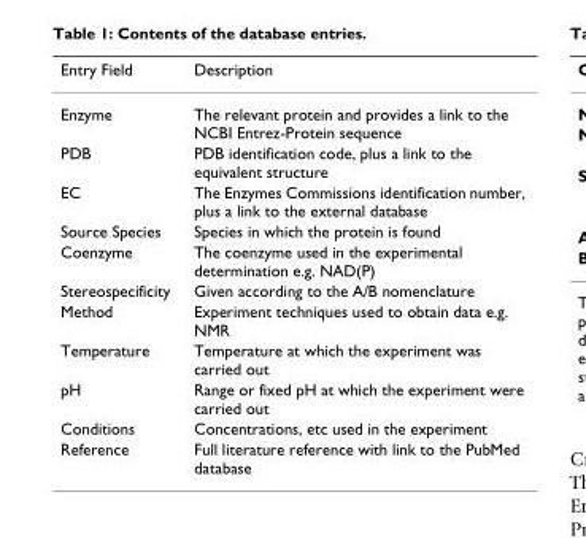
<table><thead><tr><td>Entry Field</td><td>Description</td></tr></thead><tbody><tr><td>Enzyme</td><td>The relevant protein and provides a link to the NCBI Entrez-Protein sequence</td></tr><tr><td>PDB</td><td>PDB identification code, plus a link to the equivalent structure</td></tr><tr><td>EC</td><td>The Enzymes Commissions identification number, plus a link to the external database</td></tr><tr><td>Source Species</td><td>Species in which the protein is found</td></tr><tr><td>Coenzyme</td><td>The coenzyme used in the experimental determination e.g. NAD(P)</td></tr><tr><td>Stereospecificity</td><td>Given according to the A/B nomenclature</td></tr><tr><td>Method</td><td>Experiment techniques used to obtain data e.g. NMR</td></tr><tr><td>Temperature</td><td>Temperature at which the experiment was carried out</td></tr><tr><td>pH</td><td>Range or fixed pH at which the experiment were carried out</td></tr><tr><td>Conditions</td><td>Concentrations, etc used in the experiment</td></tr><tr><td>Reference</td><td>Full literature reference with link to the PubMed database</td></tr></tbody></table>